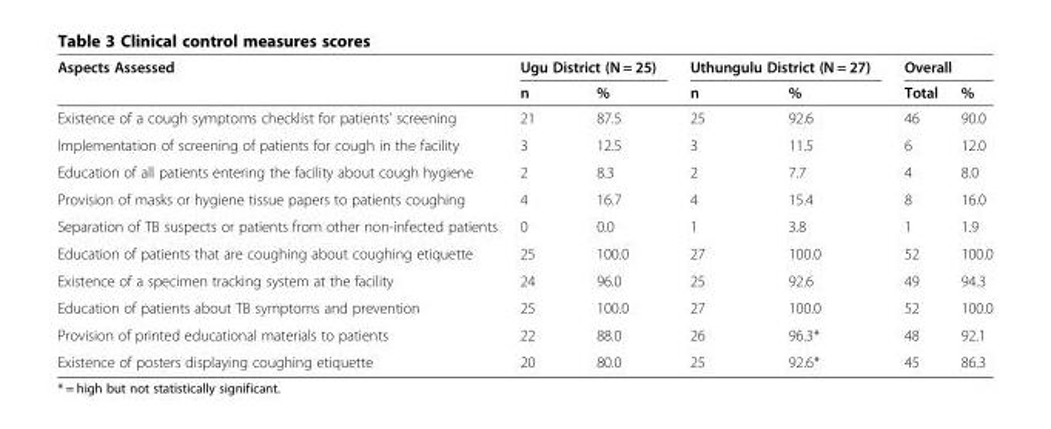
<table><thead><tr><td rowspan="2">Aspects Assessed</td><td colspan="2">Ugu District (N = 25)</td><td colspan="2">Uthungulu District (N = 27)</td><td colspan="2">Overall</td></tr><tr><td>n</td><td>%</td><td>n</td><td>%</td><td>Total</td><td>%</td></tr></thead><tbody><tr><td>Existence of a cough symptoms checklist for patients’ screening</td><td>21</td><td>87.5</td><td>25</td><td>92.6</td><td>46</td><td>90.0</td></tr><tr><td>Implementation of screening of patients for cough in the facility</td><td>3</td><td>12.5</td><td>3</td><td>11.5</td><td>6</td><td>12.0</td></tr><tr><td>Education of all patients entering the facility about cough hygiene</td><td>2</td><td>8.3</td><td>2</td><td>7.7</td><td>4</td><td>8.0</td></tr><tr><td>Provision of masks or hygiene tissue papers to patients coughing</td><td>4</td><td>16.7</td><td>4</td><td>15.4</td><td>8</td><td>16.0</td></tr><tr><td>Separation of TB suspects or patients from other non-infected patients</td><td>0</td><td>0.0</td><td>1</td><td>3.8</td><td>1</td><td>1.9</td></tr><tr><td>Education of patients that are coughing about coughing etiquette</td><td>25</td><td>100.0</td><td>27</td><td>100.0</td><td>52</td><td>100.0</td></tr><tr><td>Existence of a specimen tracking system at the facility</td><td>24</td><td>96.0</td><td>25</td><td>92.6</td><td>49</td><td>94.3</td></tr><tr><td>Education of patients about TB symptoms and prevention</td><td>25</td><td>100.0</td><td>27</td><td>100.0</td><td>52</td><td>100.0</td></tr><tr><td>Provision of printed educational materials to patients</td><td>22</td><td>88.0</td><td>26</td><td>96.3*</td><td>48</td><td>92.1</td></tr><tr><td>Existence of posters displaying coughing etiquette</td><td>20</td><td>80.0</td><td>25</td><td>92.6*</td><td>45</td><td>86.3</td></tr></tbody></table>